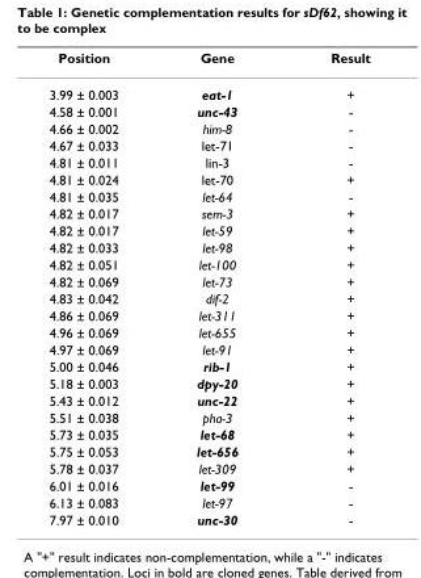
<table><thead><tr><td>Position</td><td>Gene</td><td>Result</td></tr></thead><tbody><tr><td>3.99 ± 0.003</td><td>eat-1</td><td>+</td></tr><tr><td>4.58 ± 0.001</td><td>unc-43</td><td>-</td></tr><tr><td>4.66 ± 0.002</td><td>him-8</td><td>-</td></tr><tr><td>4.67 ± 0.033</td><td>let-71</td><td>-</td></tr><tr><td>4.81 ± 0.011</td><td>lin-3</td><td>-</td></tr><tr><td>4.81 ± 0.024</td><td>let-70</td><td>+</td></tr><tr><td>4.81 ± 0.035</td><td>let-64</td><td>-</td></tr><tr><td>4.82 ± 0.017</td><td>sem-3</td><td>+</td></tr><tr><td>4.82 ± 0.017</td><td>let-59</td><td>+</td></tr><tr><td>4.82 ± 0.033</td><td>let-98</td><td>+</td></tr><tr><td>4.82 ± 0.051</td><td>let-100</td><td>+</td></tr><tr><td>4.82 ± 0.069</td><td>let-73</td><td>+</td></tr><tr><td>4.83 ± 0.042</td><td>dif-2</td><td>+</td></tr><tr><td>4.86 ± 0.069</td><td>let-311</td><td>+</td></tr><tr><td>4.96 ± 0.069</td><td>let-655</td><td>+</td></tr><tr><td>4.97 ± 0.069</td><td>let-91</td><td>+</td></tr><tr><td>5.00 ± 0.046</td><td>rib-1</td><td>+</td></tr><tr><td>5.18 ± 0.003</td><td>dpy-20</td><td>+</td></tr><tr><td>5.43 ± 0.012</td><td>unc-22</td><td>+</td></tr><tr><td>5.51 ± 0.038</td><td>pha-3</td><td>+</td></tr><tr><td>5.73 ± 0.035</td><td>let-68</td><td>+</td></tr><tr><td>5.75 ± 0.053</td><td>let-656</td><td>+</td></tr><tr><td>5.78 ± 0.037</td><td>let-309</td><td>+</td></tr><tr><td>6.01 ± 0.016</td><td>let-99</td><td>-</td></tr><tr><td>6.13 ± 0.083</td><td>let-97</td><td>-</td></tr><tr><td>7.97 ± 0.010</td><td>unc-30</td><td>-</td></tr></tbody></table>